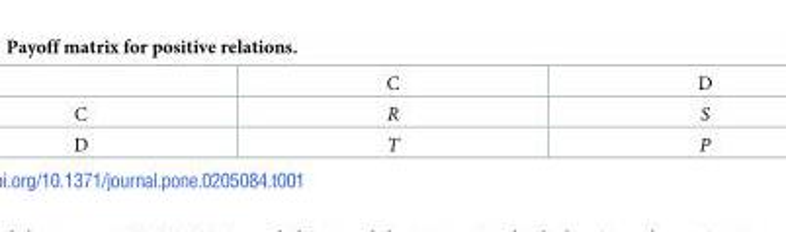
<table><thead><tr><td></td><td>C</td><td>D</td></tr></thead><tbody><tr><td>C</td><td>R</td><td>S</td></tr><tr><td>D</td><td>T</td><td>P</td></tr></tbody></table>